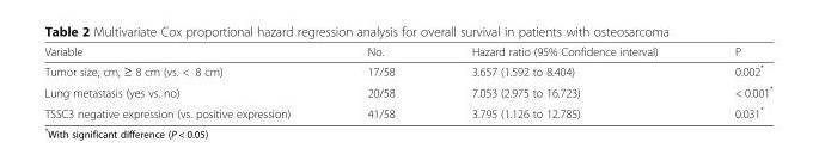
<table><thead><tr><td>Variable</td><td>No.</td><td>Hazard ratio (95% Confidence interval)</td><td>P</td></tr></thead><tbody><tr><td>Tumor size, cm, ≥ 8 cm (vs. &lt; 8 cm)</td><td>17/58</td><td>3.657 (1.592 to 8.404)</td><td>0.002*</td></tr><tr><td>Lung metastasis (yes vs. no)</td><td>20/58</td><td>7.053 (2.975 to 16.723)</td><td>&lt; 0.001*</td></tr><tr><td>TSSC3 negative expression (vs. positive expression)</td><td>41/58</td><td>3.795 (1.126 to 12.785)</td><td>0.031*</td></tr></tbody></table>